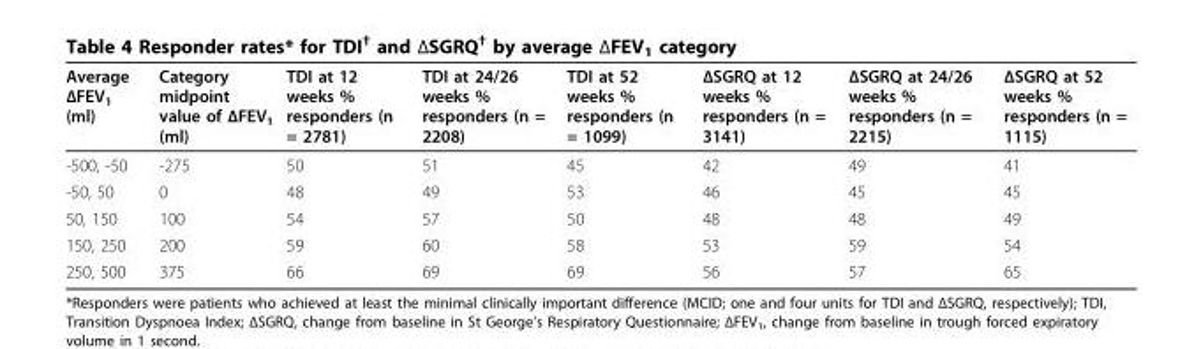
<table><thead><tr><td>Average ΔFEV<sub>1</sub> (ml)</td><td>Category midpoint value of ΔFEV<sub>1</sub> (ml)</td><td>TDI at 12 weeks % responders (n = 2781)</td><td>TDI at 24/26 weeks % responders (n = 2208)</td><td>TDI at 52 weeks % responders (n = 1099)</td><td>ΔSGRQ at 12 weeks % responders (n = 3141)</td><td>ΔSGRQ at 24/26 weeks % responders (n = 2215)</td><td>ΔSGRQ at 52 weeks % responders (n = 1115)</td></tr></thead><tbody><tr><td>-500, -50</td><td>-275</td><td>50</td><td>51</td><td>45</td><td>42</td><td>49</td><td>41</td></tr><tr><td>-50, 50</td><td>0</td><td>48</td><td>49</td><td>53</td><td>46</td><td>45</td><td>45</td></tr><tr><td>50, 150</td><td>100</td><td>54</td><td>57</td><td>50</td><td>48</td><td>48</td><td>49</td></tr><tr><td>150, 250</td><td>200</td><td>59</td><td>60</td><td>58</td><td>53</td><td>59</td><td>54</td></tr><tr><td>250, 500</td><td>375</td><td>66</td><td>69</td><td>69</td><td>56</td><td>57</td><td>65</td></tr></tbody></table>